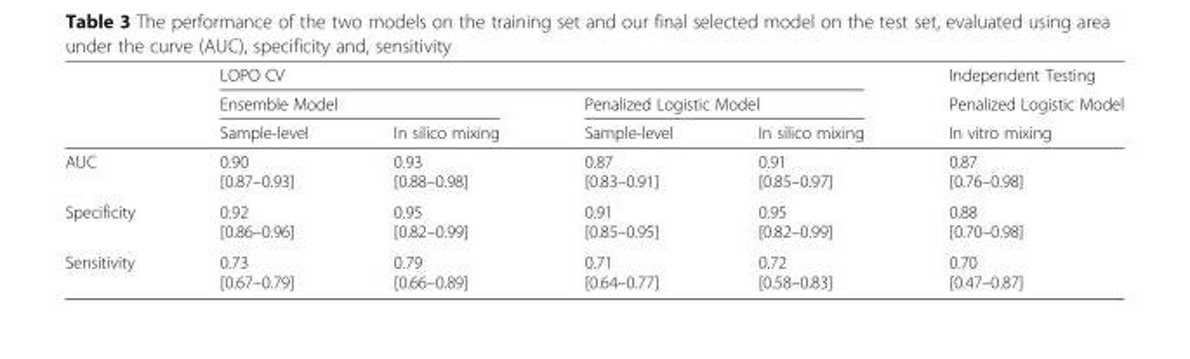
<table><thead><tr><td rowspan="3"></td><td colspan="4">LOPO CV</td><td rowspan="3">Independent Testing Penalized Logistic Model In vitro mixing</td></tr><tr><td colspan="2">Ensemble Model</td><td colspan="2">Penalized Logistic Model</td></tr><tr><td>Sample-level</td><td>In silico mixing</td><td>Sample-level</td><td>In silico mixing</td></tr></thead><tbody><tr><td>AUC</td><td>0.90 [0.87–0.93]</td><td>0.93 [0.88–0.98]</td><td>0.87 [0.83–0.91]</td><td>0.91 [0.85–0.97]</td><td>0.87 [0.76–0.98]</td></tr><tr><td>Specificity</td><td>0.92 [0.86–0.96]</td><td>0.95 [0.82–0.99]</td><td>0.91 [0.85–0.95]</td><td>0.95 [0.82–0.99]</td><td>0.88 [0.70–0.98]</td></tr><tr><td>Sensitivity</td><td>0.73 [0.67–0.79]</td><td>0.79 [0.66–0.89]</td><td>0.71 [0.64–0.77]</td><td>0.72 [0.58–0.83]</td><td>0.70 [0.47–0.87]</td></tr></tbody></table>